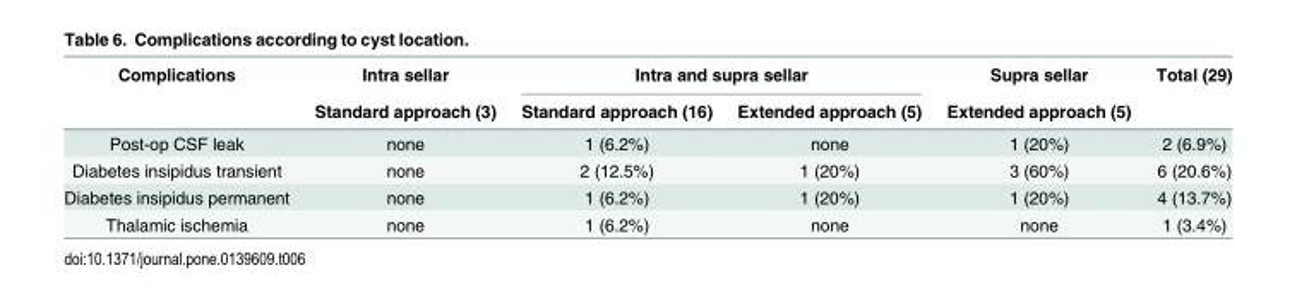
<table><thead><tr><td rowspan="2">Complications</td><td rowspan="2">Intra sellar Standard approach (3)</td><td colspan="2">Intra and supra sellar</td><td rowspan="2">Supra sellar Extended approach (5)</td><td rowspan="2">Total (29)</td></tr><tr><td>Standard approach (16)</td><td>Extended approach (5)</td></tr></thead><tbody><tr><td>Post-op CSF leak</td><td>none</td><td>1 (6.2%)</td><td>none</td><td>1 (20%)</td><td>2 (6.9%)</td></tr><tr><td>Diabetes insipidus transient</td><td>none</td><td>2 (12.5%)</td><td>1 (20%)</td><td>3 (60%)</td><td>6 (20.6%)</td></tr><tr><td>Diabetes insipidus permanent</td><td>none</td><td>1 (6.2%)</td><td>1 (20%)</td><td>1 (20%)</td><td>4 (13.7%)</td></tr><tr><td>Thalamic ischemia</td><td>none</td><td>1 (6.2%)</td><td>none</td><td>none</td><td>1 (3.4%)</td></tr></tbody></table>